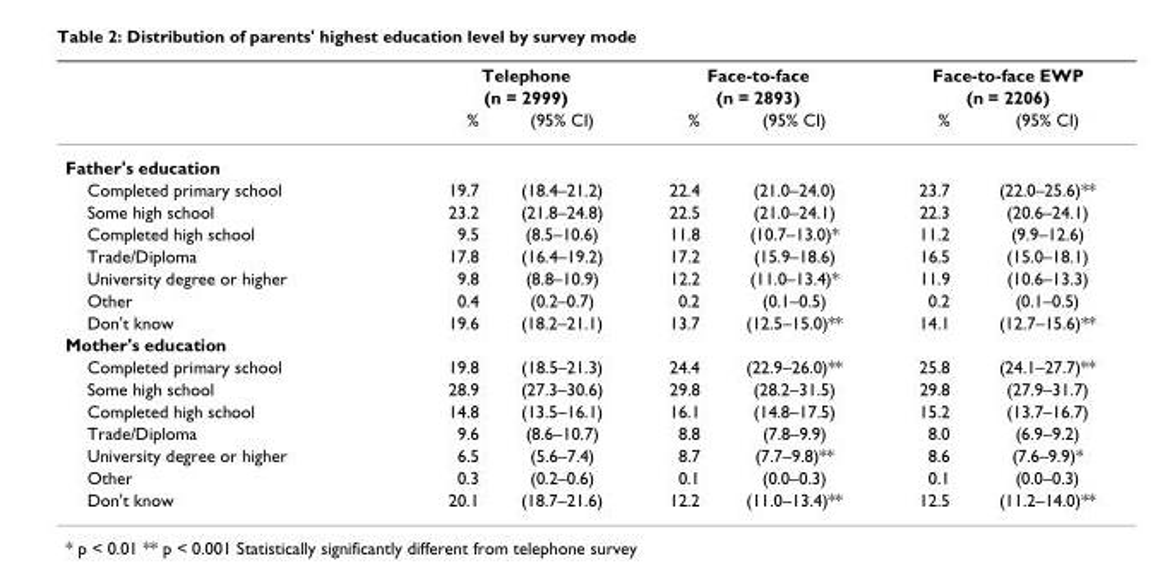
<table><thead><tr><td rowspan="3"></td><td rowspan="2" colspan="2">Telephone (n = 2999)</td><td rowspan="2" colspan="2">Face-to-face (n = 2893)</td><td rowspan="2" colspan="2">Face-to-face EWP (n = 2206)</td></tr><tr></tr><tr><td>%</td><td>(95% CI)</td><td>%</td><td>(95% CI)</td><td>%</td><td>(95% CI)</td></tr></thead><tbody><tr><td colspan="7">Father&#x27;s education</td></tr><tr><td>Completed primary school</td><td>19.7</td><td>(18.4–21.2)</td><td>22.4</td><td>(21.0–24.0)</td><td>23.7</td><td>(22.0–25.6)**</td></tr><tr><td>Some high school</td><td>23.2</td><td>(21.8–24.8)</td><td>22.5</td><td>(21.0–24.1)</td><td>22.3</td><td>(20.6–24.1)</td></tr><tr><td>Completed high school</td><td>9.5</td><td>(8.5–10.6)</td><td>11.8</td><td>(10.7–13.0)*</td><td>11.2</td><td>(9.9–12.6)</td></tr><tr><td>Trade/Diploma</td><td>17.8</td><td>(16.4–19.2)</td><td>17.2</td><td>(15.9–18.6)</td><td>16.5</td><td>(15.0–18.1)</td></tr><tr><td>University degree or higher</td><td>9.8</td><td>(8.8–10.9)</td><td>12.2</td><td>(11.0–13.4)*</td><td>11.9</td><td>(10.6–13.3)</td></tr><tr><td>Other</td><td>0.4</td><td>(0.2–0.7)</td><td>0.2</td><td>(0.1–0.5)</td><td>0.2</td><td>(0.1–0.5)</td></tr><tr><td>Don&#x27;t know</td><td>19.6</td><td>(18.2–21.1)</td><td>13.7</td><td>(12.5–15.0)**</td><td>14.1</td><td>(12.7–15.6)**</td></tr><tr><td colspan="7">Mother&#x27;s education</td></tr><tr><td>Completed primary school</td><td>19.8</td><td>(18.5–21.3)</td><td>24.4</td><td>(22.9–26.0)**</td><td>25.8</td><td>(24.1–27.7)**</td></tr><tr><td>Some high school</td><td>28.9</td><td>(27.3–30.6)</td><td>29.8</td><td>(28.2–31.5)</td><td>29.8</td><td>(27.9–31.7)</td></tr><tr><td>Completed high school</td><td>14.8</td><td>(13.5–16.1)</td><td>16.1</td><td>(14.8–17.5)</td><td>15.2</td><td>(13.7–16.7)</td></tr><tr><td>Trade/Diploma</td><td>9.6</td><td>(8.6–10.7)</td><td>8.8</td><td>(7.8–9.9)</td><td>8.0</td><td>(6.9–9.2)</td></tr><tr><td>University degree or higher</td><td>6.5</td><td>(5.6–7.4)</td><td>8.7</td><td>(7.7–9.8)**</td><td>8.6</td><td>(7.6–9.9)*</td></tr><tr><td>Other</td><td>0.3</td><td>(0.2–0.6)</td><td>0.1</td><td>(0.0–0.3)</td><td>0.1</td><td>(0.0–0.3)</td></tr><tr><td>Don&#x27;t know</td><td>20.1</td><td>(18.7–21.6)</td><td>12.2</td><td>(11.0–13.4)**</td><td>12.5</td><td>(11.2–14.0)**</td></tr></tbody></table>